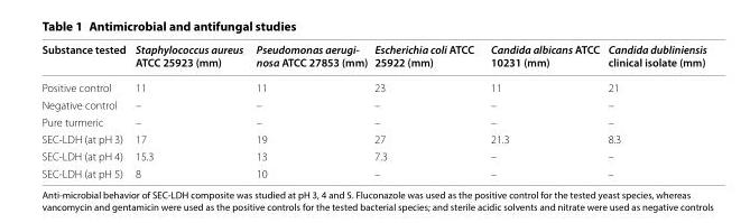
<table><thead><tr><td>Substance tested</td><td>Staphylococcus aureus ATCC 25923 (mm)</td><td>Pseudomonas aerugi- nosa ATCC 27853 (mm)</td><td>Escherichia coli ATCC 25922 (mm)</td><td>Candida albicans ATCC 10231 (mm)</td><td>Candida dubliniensis clinical isolate (mm)</td></tr></thead><tbody><tr><td>Positive control</td><td>11</td><td>11</td><td>23</td><td>11</td><td>21</td></tr><tr><td>Negative control</td><td>–</td><td>–</td><td>–</td><td>–</td><td>–</td></tr><tr><td>Pure turmeric</td><td>–</td><td>–</td><td>–</td><td>–</td><td>–</td></tr><tr><td>SEC-LDH (at pH 3)</td><td>17</td><td>19</td><td>27</td><td>21.3</td><td>8.3</td></tr><tr><td>SEC-LDH (at pH 4)</td><td>15.3</td><td>13</td><td>7.3</td><td>–</td><td>–</td></tr><tr><td>SEC-LDH (at pH 5)</td><td>8</td><td>10</td><td>–</td><td>–</td><td>–</td></tr></tbody></table>